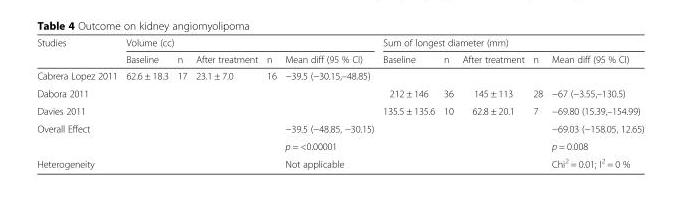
<table><thead><tr><td rowspan="2">Studies</td><td colspan="5">Volume (cc)</td><td colspan="5">Sum of longest diameter (mm)</td></tr><tr><td>Baseline</td><td>n</td><td>After treatment</td><td>n</td><td>Mean diff (95 % CI)</td><td>Baseline</td><td>n</td><td>After treatment</td><td>n</td><td>Mean diff (95 % CI)</td></tr></thead><tbody><tr><td>Cabrera Lopez 2011</td><td>62.6 ± 18.3</td><td>17</td><td>23.1 ± 7.0</td><td>16</td><td>−39.5 (−30.15,–48.85)</td><td></td><td></td><td></td><td></td><td></td></tr><tr><td>Dabora 2011</td><td></td><td></td><td></td><td></td><td></td><td>212 ± 146</td><td>36</td><td>145 ± 113</td><td>28</td><td>−67 (−3.55,–130.5)</td></tr><tr><td>Davies 2011</td><td></td><td></td><td></td><td></td><td></td><td>135.5 ± 135.6</td><td>10</td><td>62.8 ± 20.1</td><td>7</td><td>−69.80 (15.39,–154.99)</td></tr><tr><td rowspan="2">Overall Effect</td><td></td><td></td><td></td><td></td><td>−39.5 (−48.85, −30.15)</td><td></td><td></td><td></td><td></td><td>−69.03 (−158.05, 12.65)</td></tr><tr><td></td><td></td><td></td><td></td><td>p = &lt;0.00001</td><td></td><td></td><td></td><td></td><td>p = 0.008</td></tr><tr><td>Heterogeneity</td><td></td><td></td><td></td><td></td><td>Not applicable</td><td></td><td></td><td></td><td></td><td>Chi<sup>2</sup> = 0.01; I<sup>2</sup> = 0 %</td></tr></tbody></table>